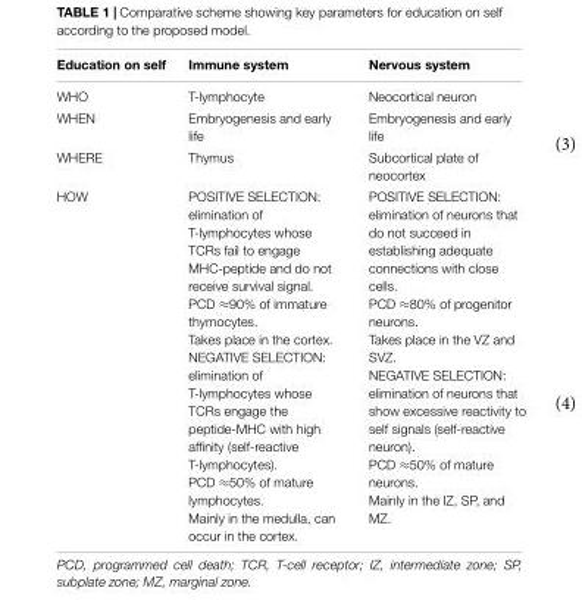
<table><thead><tr><td>Education on self</td><td>Immune system</td><td>Nervous system</td></tr></thead><tbody><tr><td>WHO</td><td>T-lymphocyte</td><td>Neocortical neuron</td></tr><tr><td>WHEN</td><td>Embryogenesis and early life</td><td>Embryogenesis and early life</td></tr><tr><td>WHERE</td><td>Thymus</td><td>Subcortical plate of neocortex</td></tr><tr><td>HOW</td><td>POSITIVE SELECTION: elimination of T-lymphocytes whose TCRs fail to engage MHC-peptide and do not receive survival signal. PCD ≈90% of immature thymocytes. Takes place in the cortex. NEGATIVE SELECTION: elimination of T-lymphocytes whose TCRs engage the peptide-MHC with high affinity (self-reactive T-lymphocytes). PCD ≈50% of mature lymphocytes. Mainly in the medulla, can occur in the cortex.</td><td>POSITIVE SELECTION: elimination of neurons that do not succeed in establishing adequate connections with close cells. PCD ≈80% of progenitor neurons. Takes place in the VZ and SVZ. NEGATIVE SELECTION: elimination of neurons that show excessive reactivity to self signals (self-reactive neuron). PCD ≈50% of mature neurons. Mainly in the IZ, SP, and MZ.</td></tr></tbody></table>